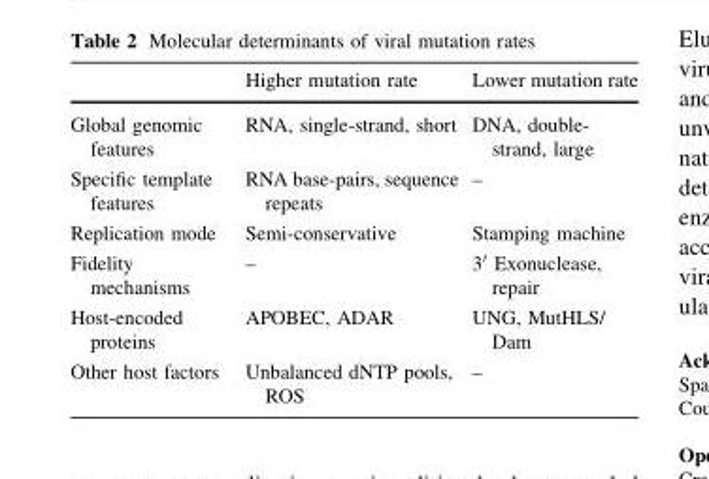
<table><thead><tr><td></td><td>Higher mutation rate</td><td>Lower mutation rate</td></tr></thead><tbody><tr><td>Global genomic features</td><td>RNA, single-strand, short</td><td>DNA, double- strand, large</td></tr><tr><td>Specific template features</td><td>RNA base-pairs, sequence repeats</td><td>–</td></tr><tr><td>Replication mode</td><td>Semi-conservative</td><td>Stamping machine</td></tr><tr><td>Fidelity mechanisms</td><td>–</td><td>3′ Exonuclease, repair</td></tr><tr><td>Host-encoded proteins</td><td>APOBEC, ADAR</td><td>UNG, MutHLS/ Dam</td></tr><tr><td>Other host factors</td><td>Unbalanced dNTP pools, ROS</td><td>–</td></tr></tbody></table>